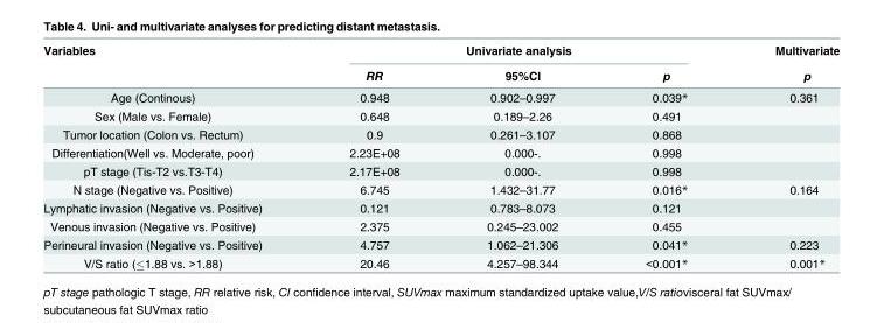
<table><thead><tr><td rowspan="2">Variables</td><td colspan="3">Univariate analysis</td><td rowspan="2">Multivariate p</td></tr><tr><td>RR</td><td>95%CI</td><td>p</td></tr></thead><tbody><tr><td>Age (Continous)</td><td>0.948</td><td>0.902–0.997</td><td>0.039*</td><td>0.361</td></tr><tr><td>Sex (Male vs. Female)</td><td>0.648</td><td>0.189–2.26</td><td>0.491</td><td></td></tr><tr><td>Tumor location (Colon vs. Rectum)</td><td>0.9</td><td>0.261–3.107</td><td>0.868</td><td></td></tr><tr><td>Differentiation(Well vs. Moderate, poor)</td><td>2.23E+08</td><td>0.000-.</td><td>0.998</td><td></td></tr><tr><td>pT stage (Tis-T2 vs.T3-T4)</td><td>2.17E+08</td><td>0.000-.</td><td>0.998</td><td></td></tr><tr><td>N stage (Negative vs. Positive)</td><td>6.745</td><td>1.432–31.77</td><td>0.016*</td><td>0.164</td></tr><tr><td>Lymphatic invasion (Negative vs. Positive)</td><td>0.121</td><td>0.783–8.073</td><td>0.121</td><td></td></tr><tr><td>Venous invasion (Negative vs. Positive)</td><td>2.375</td><td>0.245–23.002</td><td>0.455</td><td></td></tr><tr><td>Perineural invasion (Negative vs. Positive)</td><td>4.757</td><td>1.062–21.306</td><td>0.041*</td><td>0.223</td></tr><tr><td>V/S ratio (≤1.88 vs. &gt;1.88)</td><td>20.46</td><td>4.257–98.344</td><td>&lt;0.001*</td><td>0.001*</td></tr></tbody></table>